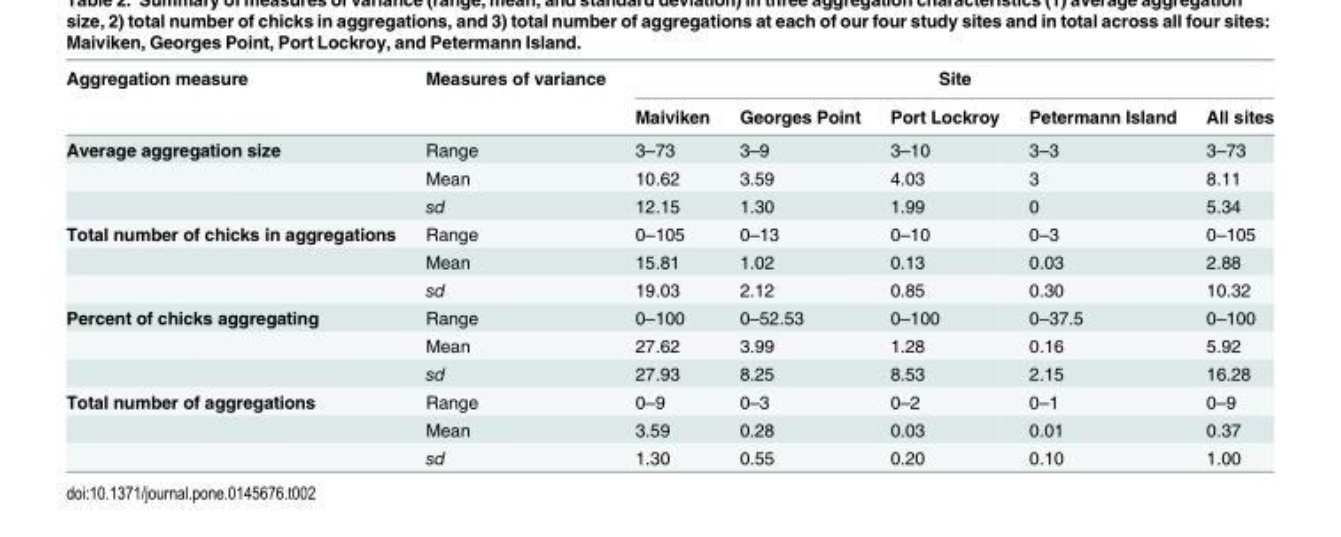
<table><thead><tr><td rowspan="2">Aggregation measure</td><td rowspan="2">Measures of variance</td><td colspan="5">Site</td></tr><tr><td>Maiviken</td><td>Georges Point</td><td>Port Lockroy</td><td>Petermann Island</td><td>All sites</td></tr></thead><tbody><tr><td rowspan="3">Average aggregation size</td><td>Range</td><td>3–73</td><td>3–9</td><td>3–10</td><td>3–3</td><td>3–73</td></tr><tr><td>Mean</td><td>10.62</td><td>3.59</td><td>4.03</td><td>3</td><td>8.11</td></tr><tr><td>sd</td><td>12.15</td><td>1.30</td><td>1.99</td><td>0</td><td>5.34</td></tr><tr><td rowspan="3">Total number of chicks in aggregations</td><td>Range</td><td>0–105</td><td>0–13</td><td>0–10</td><td>0–3</td><td>0–105</td></tr><tr><td>Mean</td><td>15.81</td><td>1.02</td><td>0.13</td><td>0.03</td><td>2.88</td></tr><tr><td>sd</td><td>19.03</td><td>2.12</td><td>0.85</td><td>0.30</td><td>10.32</td></tr><tr><td rowspan="3">Percent of chicks aggregating</td><td>Range</td><td>0–100</td><td>0–52.53</td><td>0–100</td><td>0–37.5</td><td>0–100</td></tr><tr><td>Mean</td><td>27.62</td><td>3.99</td><td>1.28</td><td>0.16</td><td>5.92</td></tr><tr><td>sd</td><td>27.93</td><td>8.25</td><td>8.53</td><td>2.15</td><td>16.28</td></tr><tr><td rowspan="3">Total number of aggregations</td><td>Range</td><td>0–9</td><td>0–3</td><td>0–2</td><td>0–1</td><td>0–9</td></tr><tr><td>Mean</td><td>3.59</td><td>0.28</td><td>0.03</td><td>0.01</td><td>0.37</td></tr><tr><td>sd</td><td>1.30</td><td>0.55</td><td>0.20</td><td>0.10</td><td>1.00</td></tr></tbody></table>